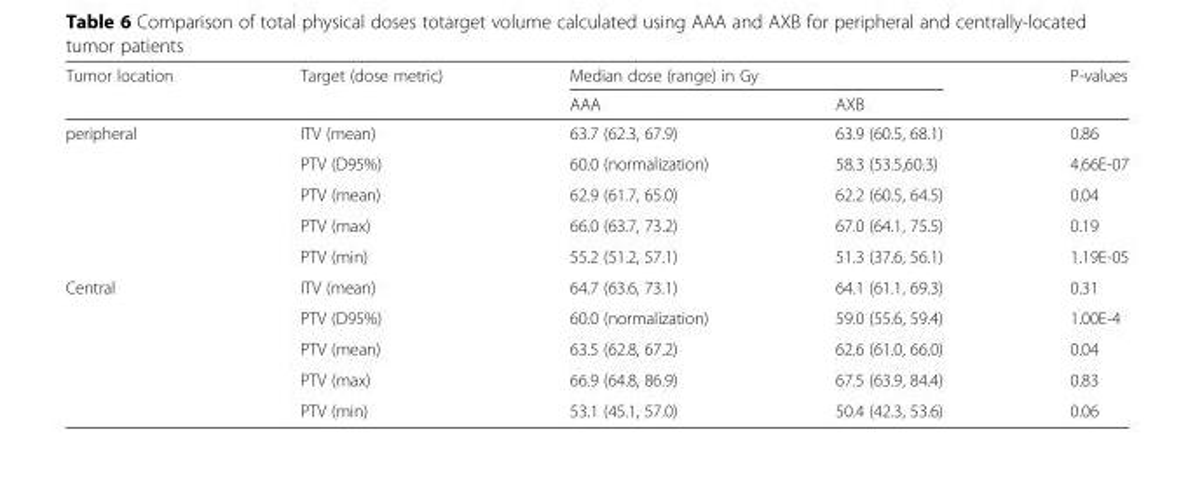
<table><thead><tr><td rowspan="2">Tumor location</td><td rowspan="2">Target (dose metric)</td><td colspan="2">Median dose (range) in Gy</td><td rowspan="2">P-values</td></tr><tr><td>AAA</td><td>AXB</td></tr></thead><tbody><tr><td rowspan="5">peripheral</td><td>ITV (mean)</td><td>63.7 (62.3, 67.9)</td><td>63.9 (60.5, 68.1)</td><td>0.86</td></tr><tr><td>PTV (D95%)</td><td>60.0 (normalization)</td><td>58.3 (53.5,60.3)</td><td>4.66E-07</td></tr><tr><td>PTV (mean)</td><td>62.9 (61.7, 65.0)</td><td>62.2 (60.5, 64.5)</td><td>0.04</td></tr><tr><td>PTV (max)</td><td>66.0 (63.7, 73.2)</td><td>67.0 (64.1, 75.5)</td><td>0.19</td></tr><tr><td>PTV (min)</td><td>55.2 (51.2, 57.1)</td><td>51.3 (37.6, 56.1)</td><td>1.19E-05</td></tr><tr><td rowspan="5">Central</td><td>ITV (mean)</td><td>64.7 (63.6, 73.1)</td><td>64.1 (61.1, 69.3)</td><td>0.31</td></tr><tr><td>PTV (D95%)</td><td>60.0 (normalization)</td><td>59.0 (55.6, 59.4)</td><td>1.00E-4</td></tr><tr><td>PTV (mean)</td><td>63.5 (62.8, 67.2)</td><td>62.6 (61.0, 66.0)</td><td>0.04</td></tr><tr><td>PTV (max)</td><td>66.9 (64.8, 86.9)</td><td>67.5 (63.9, 84.4)</td><td>0.83</td></tr><tr><td>PTV (min)</td><td>53.1 (45.1, 57.0)</td><td>50.4 (42.3, 53.6)</td><td>0.06</td></tr></tbody></table>